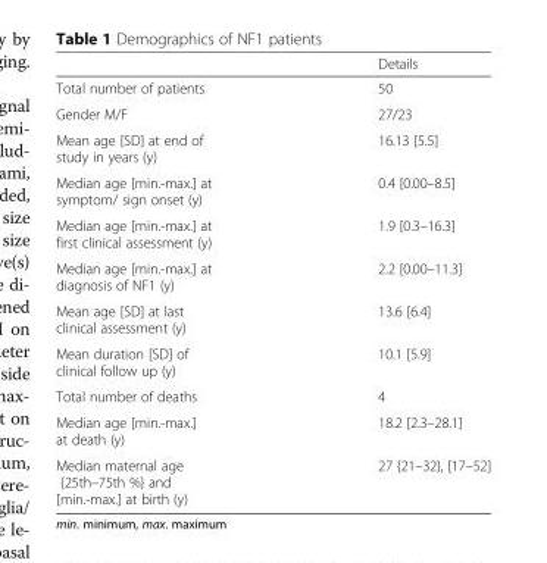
<table><thead><tr><td></td><td>Details</td></tr></thead><tbody><tr><td>Total number of patients</td><td>50</td></tr><tr><td>Gender M/F</td><td>27/23</td></tr><tr><td>Mean age [SD] at end of study in years (y)</td><td>16.13 [5.5]</td></tr><tr><td>Median age [min.-max.] at symptom/ sign onset (y)</td><td>0.4 [0.00–8.5]</td></tr><tr><td>Median age [min.-max.] at first clinical assessment (y)</td><td>1.9 [0.3–16.3]</td></tr><tr><td>Median age [min.-max.] at diagnosis of NF1 (y)</td><td>2.2 [0.00–11.3]</td></tr><tr><td>Mean age [SD] at last clinical assessment (y)</td><td>13.6 [6.4]</td></tr><tr><td>Mean duration [SD] of clinical follow up (y)</td><td>10.1 [5.9]</td></tr><tr><td>Total number of deaths</td><td>4</td></tr><tr><td>Median age [min.-max.] at death (y)</td><td>18.2 [2.3–28.1]</td></tr><tr><td>Median maternal age {25th–75th %} and [min.-max.] at birth (y)</td><td>27 {21–32}, [17–52]</td></tr></tbody></table>